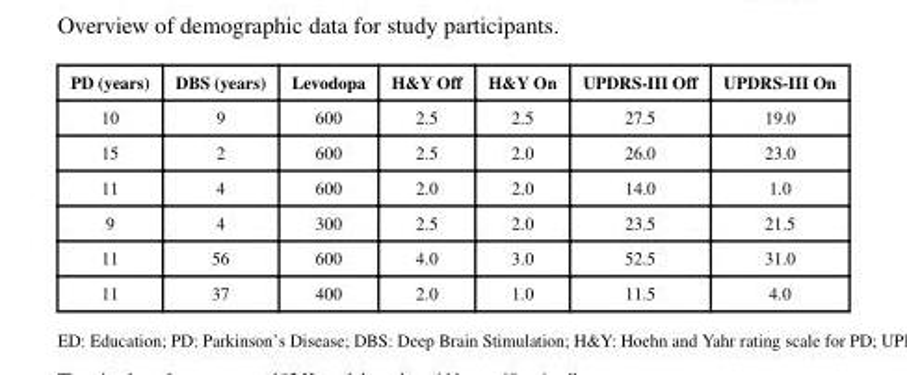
<table><thead><tr><td>PD (years)</td><td>DBS (years)</td><td>Levodopa</td><td>H&amp;Y Off</td><td>H&amp;Y On</td><td>UPDRS-III Off</td><td>UPDRS-III On</td></tr></thead><tbody><tr><td>10</td><td>9</td><td>600</td><td>2.5</td><td>2.5</td><td>27.5</td><td>19.0</td></tr><tr><td>15</td><td>2</td><td>600</td><td>2.5</td><td>2.0</td><td>26.0</td><td>23.0</td></tr><tr><td>11</td><td>4</td><td>600</td><td>2.0</td><td>2.0</td><td>14.0</td><td>1.0</td></tr><tr><td>9</td><td>4</td><td>300</td><td>2.5</td><td>2.0</td><td>23.5</td><td>21.5</td></tr><tr><td>11</td><td>56</td><td>600</td><td>4.0</td><td>3.0</td><td>52.5</td><td>31.0</td></tr><tr><td>11</td><td>37</td><td>400</td><td>2.0</td><td>1.0</td><td>11.5</td><td>4.0</td></tr></tbody></table>